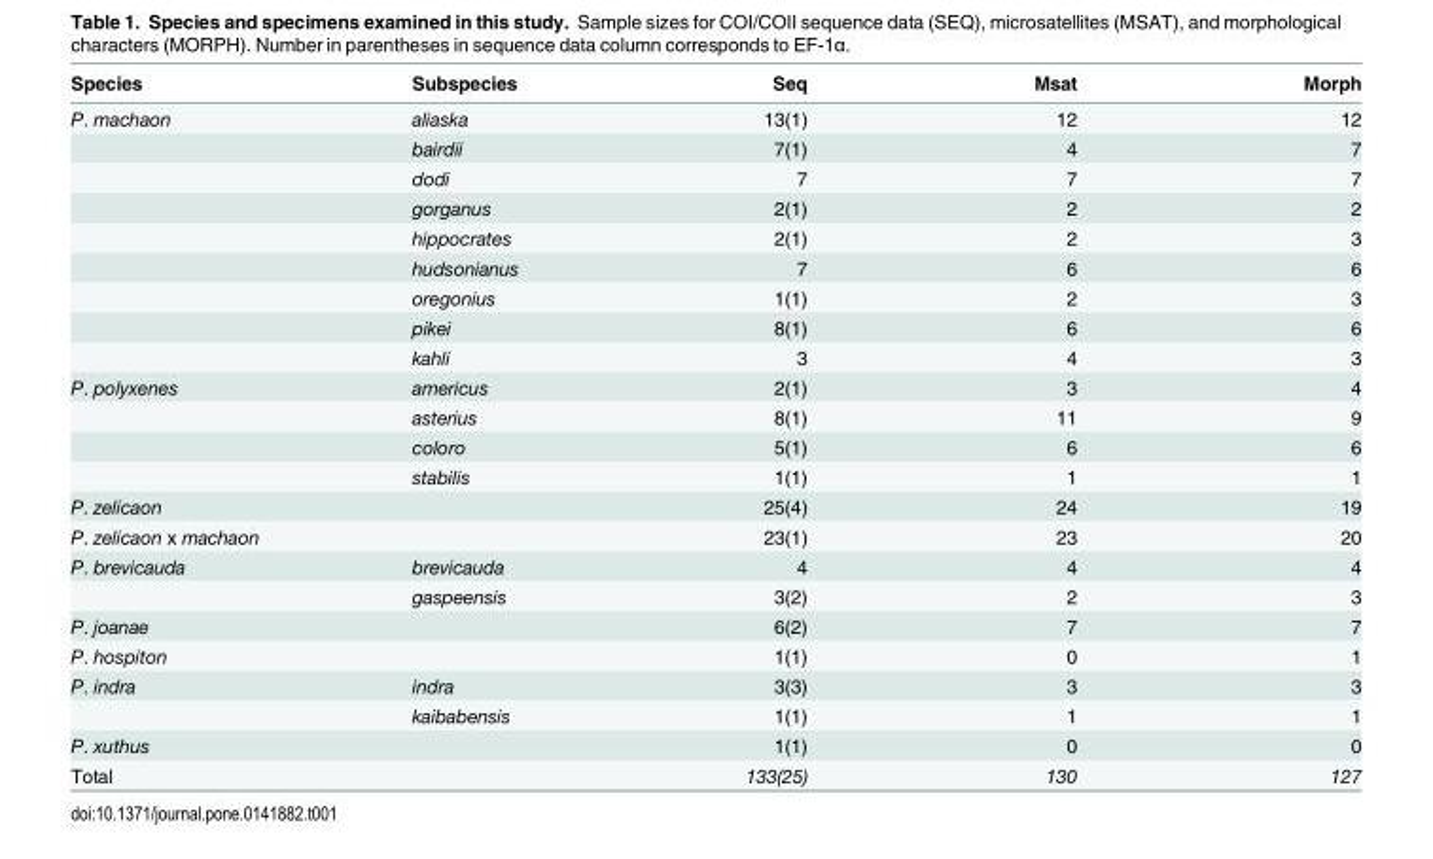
<table><thead><tr><td>Species</td><td>Subspecies</td><td>Seq</td><td>Msat</td><td>Morph</td></tr></thead><tbody><tr><td rowspan="9">P. machaon</td><td>aliaska</td><td>13(1)</td><td>12</td><td>12</td></tr><tr><td>bairdii</td><td>7(1)</td><td>4</td><td>7</td></tr><tr><td>dodi</td><td>7</td><td>7</td><td>7</td></tr><tr><td>gorganus</td><td>2(1)</td><td>2</td><td>2</td></tr><tr><td>hippocrates</td><td>2(1)</td><td>2</td><td>3</td></tr><tr><td>hudsonianus</td><td>7</td><td>6</td><td>6</td></tr><tr><td>oregonius</td><td>1(1)</td><td>2</td><td>3</td></tr><tr><td>pikei</td><td>8(1)</td><td>6</td><td>6</td></tr><tr><td>kahli</td><td>3</td><td>4</td><td>3</td></tr><tr><td rowspan="4">P. polyxenes</td><td>americus</td><td>2(1)</td><td>3</td><td>4</td></tr><tr><td>asterius</td><td>8(1)</td><td>11</td><td>9</td></tr><tr><td>coloro</td><td>5(1)</td><td>6</td><td>6</td></tr><tr><td>stabilis</td><td>1(1)</td><td>1</td><td>1</td></tr><tr><td>P. zelicaon</td><td></td><td>25(4)</td><td>24</td><td>19</td></tr><tr><td colspan="2">P. zelicaon x machaon</td><td>23(1)</td><td>23</td><td>20</td></tr><tr><td rowspan="2">P. brevicauda</td><td>brevicauda</td><td>4</td><td>4</td><td>4</td></tr><tr><td>gaspeensis</td><td>3(2)</td><td>2</td><td>3</td></tr><tr><td>P. joanae</td><td></td><td>6(2)</td><td>7</td><td>7</td></tr><tr><td>P. hospiton</td><td></td><td>1(1)</td><td>0</td><td>1</td></tr><tr><td rowspan="2">P. indra</td><td>indra</td><td>3(3)</td><td>3</td><td>3</td></tr><tr><td>kaibabensis</td><td>1(1)</td><td>1</td><td>1</td></tr><tr><td>P. xuthus</td><td></td><td>1(1)</td><td>0</td><td>0</td></tr><tr><td>Total</td><td></td><td>133(25)</td><td>130</td><td>127</td></tr></tbody></table>